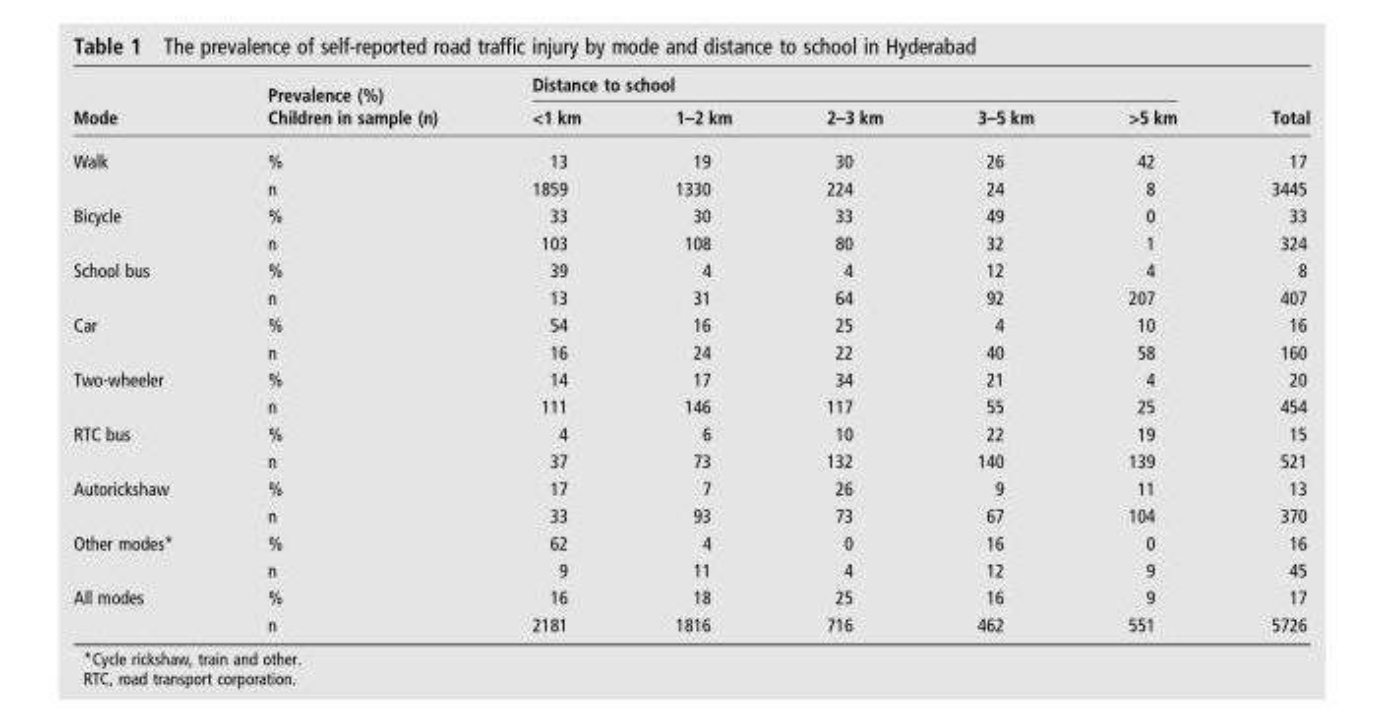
<table><thead><tr><td rowspan="2">Mode</td><td rowspan="2">Prevalence (%) Children in sample (n)</td><td colspan="5">Distance to school</td><td rowspan="2">Total</td></tr><tr><td>&lt;1 km</td><td>1–2 km</td><td>2–3 km</td><td>3–5 km</td><td>&gt;5 km</td></tr></thead><tbody><tr><td rowspan="2">Walk</td><td>%</td><td>13</td><td>19</td><td>30</td><td>26</td><td>42</td><td>17</td></tr><tr><td>n</td><td>1859</td><td>1330</td><td>224</td><td>24</td><td>8</td><td>3445</td></tr><tr><td rowspan="2">Bicycle</td><td>%</td><td>33</td><td>30</td><td>33</td><td>49</td><td>0</td><td>33</td></tr><tr><td>n</td><td>103</td><td>108</td><td>80</td><td>32</td><td>1</td><td>324</td></tr><tr><td rowspan="2">School bus</td><td>%</td><td>39</td><td>4</td><td>4</td><td>12</td><td>4</td><td>8</td></tr><tr><td>n</td><td>13</td><td>31</td><td>64</td><td>92</td><td>207</td><td>407</td></tr><tr><td rowspan="2">Car</td><td>%</td><td>54</td><td>16</td><td>25</td><td>4</td><td>10</td><td>16</td></tr><tr><td>n</td><td>16</td><td>24</td><td>22</td><td>40</td><td>58</td><td>160</td></tr><tr><td rowspan="2">Two-wheeler</td><td>%</td><td>14</td><td>17</td><td>34</td><td>21</td><td>4</td><td>20</td></tr><tr><td>n</td><td>111</td><td>146</td><td>117</td><td>55</td><td>25</td><td>454</td></tr><tr><td rowspan="2">RTC bus</td><td>%</td><td>4</td><td>6</td><td>10</td><td>22</td><td>19</td><td>15</td></tr><tr><td>n</td><td>37</td><td>73</td><td>132</td><td>140</td><td>139</td><td>521</td></tr><tr><td rowspan="2">Autorickshaw</td><td>%</td><td>17</td><td>7</td><td>26</td><td>9</td><td>11</td><td>13</td></tr><tr><td>n</td><td>33</td><td>93</td><td>73</td><td>67</td><td>104</td><td>370</td></tr><tr><td rowspan="2">Other modes*</td><td>%</td><td>62</td><td>4</td><td>0</td><td>16</td><td>0</td><td>16</td></tr><tr><td>n</td><td>9</td><td>11</td><td>4</td><td>12</td><td>9</td><td>45</td></tr><tr><td rowspan="2">All modes</td><td>%</td><td>16</td><td>18</td><td>25</td><td>16</td><td>9</td><td>17</td></tr><tr><td>n</td><td>2181</td><td>1816</td><td>716</td><td>462</td><td>551</td><td>5726</td></tr></tbody></table>